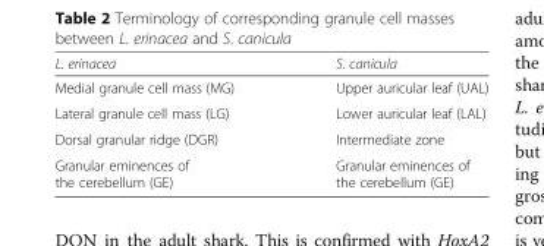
<table><thead><tr><td>L. erinacea</td><td>S. canicula</td></tr></thead><tbody><tr><td>Medial granule cell mass (MG)</td><td>Upper auricular leaf (UAL)</td></tr><tr><td>Lateral granule cell mass (LG)</td><td>Lower auricular leaf (LAL)</td></tr><tr><td>Dorsal granular ridge (DGR)</td><td>Intermediate zone</td></tr><tr><td>Granular eminences of the cerebellum (GE)</td><td>Granular eminences of the cerebellum (GE)</td></tr></tbody></table>